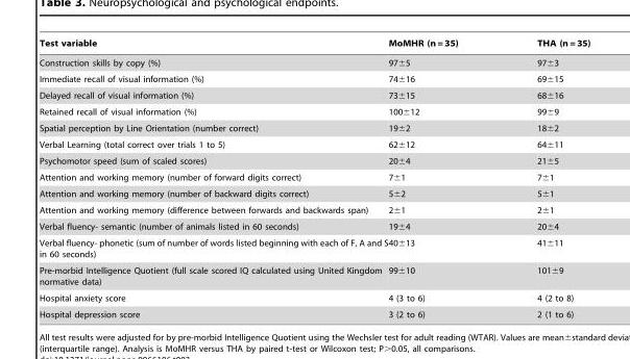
<table><thead><tr><td>Test variable</td><td>MoMHR (n = 35)</td><td>THA (n = 35)</td></tr></thead><tbody><tr><td>Construction skills by copy (%)</td><td>97±5</td><td>97±3</td></tr><tr><td>Immediate recall of visual information (%)</td><td>74±16</td><td>69±15</td></tr><tr><td>Delayed recall of visual information (%)</td><td>73±15</td><td>68±16</td></tr><tr><td>Retained recall of visual information (%)</td><td>100±12</td><td>99±9</td></tr><tr><td>Spatial perception by Line Orientation (number correct)</td><td>19±2</td><td>18±2</td></tr><tr><td>Verbal Learning (total correct over trials 1 to 5)</td><td>62±12</td><td>64±11</td></tr><tr><td>Psychomotor speed (sum of scaled scores)</td><td>20±4</td><td>21±5</td></tr><tr><td>Attention and working memory (number of forward digits correct)</td><td>7±1</td><td>7±1</td></tr><tr><td>Attention and working memory (number of backward digits correct)</td><td>5±2</td><td>5±1</td></tr><tr><td>Attention and working memory (difference between forwards and backwards span)</td><td>2±1</td><td>2±1</td></tr><tr><td>Verbal fluency- semantic (number of animals listed in 60 seconds)</td><td>19±4</td><td>20±4</td></tr><tr><td>Verbal fluency- phonetic (sum of number of words listed beginning with each of F, A and S in 60 seconds)</td><td>40±13</td><td>41±11</td></tr><tr><td>Pre-morbid Intelligence Quotient (full scale scored IQ calculated using United Kingdom normative data)</td><td>99±10</td><td>101±9</td></tr><tr><td>Hospital anxiety score</td><td>4 (3 to 6)</td><td>4 (2 to 8)</td></tr><tr><td>Hospital depression score</td><td>3 (2 to 6)</td><td>2 (1 to 6)</td></tr></tbody></table>